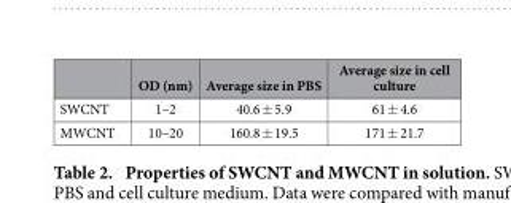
<table><thead><tr><td></td><td>OD (nm)</td><td>Average size in PBS</td><td>Average size in cell culture</td></tr></thead><tbody><tr><td>SWCNT</td><td>1–2</td><td>40.6 ± 5.9</td><td>61 ± 4.6</td></tr><tr><td>MWCNT</td><td>10–20</td><td>160.8 ± 19.5</td><td>171 ± 21.7</td></tr></tbody></table>